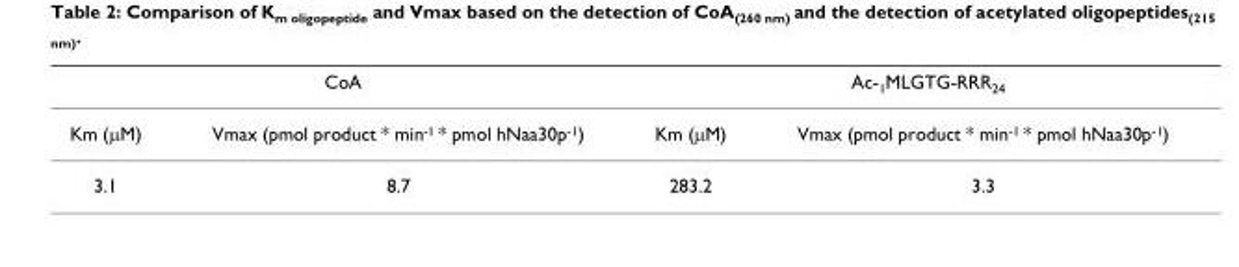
<table><thead><tr><td colspan="2">CoA</td><td colspan="2">Ac-<sub>1</sub>MLGTG-RRR<sub>24</sub></td></tr><tr><td>Km (μM)</td><td>Vmax (pmol product * min<sup>-1</sup> * pmol hNaa30p<sup>-1</sup>)</td><td>Km (μM)</td><td>Vmax (pmol product * min<sup>-1</sup> * pmol hNaa30p<sup>-1</sup>)</td></tr></thead><tbody><tr><td>3.1</td><td>8.7</td><td>283.2</td><td>3.3</td></tr></tbody></table>